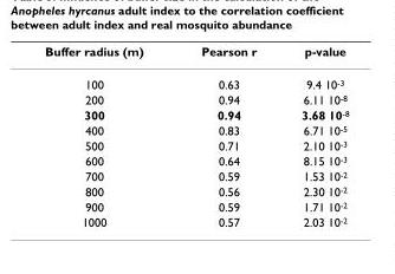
<table><thead><tr><td>Buffer radius (m)</td><td>Pearson r</td><td>p-value</td></tr></thead><tbody><tr><td>100</td><td>0.63</td><td>9.4 10<sup>-3</sup></td></tr><tr><td>200</td><td>0.94</td><td>6.11 10<sup>-8</sup></td></tr><tr><td>300</td><td>0.94</td><td>3.68 10<sup>-8</sup></td></tr><tr><td>400</td><td>0.83</td><td>6.71 10<sup>-5</sup></td></tr><tr><td>500</td><td>0.71</td><td>2.10 10<sup>-3</sup></td></tr><tr><td>600</td><td>0.64</td><td>8.15 10<sup>-3</sup></td></tr><tr><td>700</td><td>0.59</td><td>1.53 10<sup>-2</sup></td></tr><tr><td>800</td><td>0.56</td><td>2.30 10<sup>-2</sup></td></tr><tr><td>900</td><td>0.59</td><td>1.71 10<sup>-2</sup></td></tr><tr><td>1000</td><td>0.57</td><td>2.03 10<sup>-2</sup></td></tr></tbody></table>